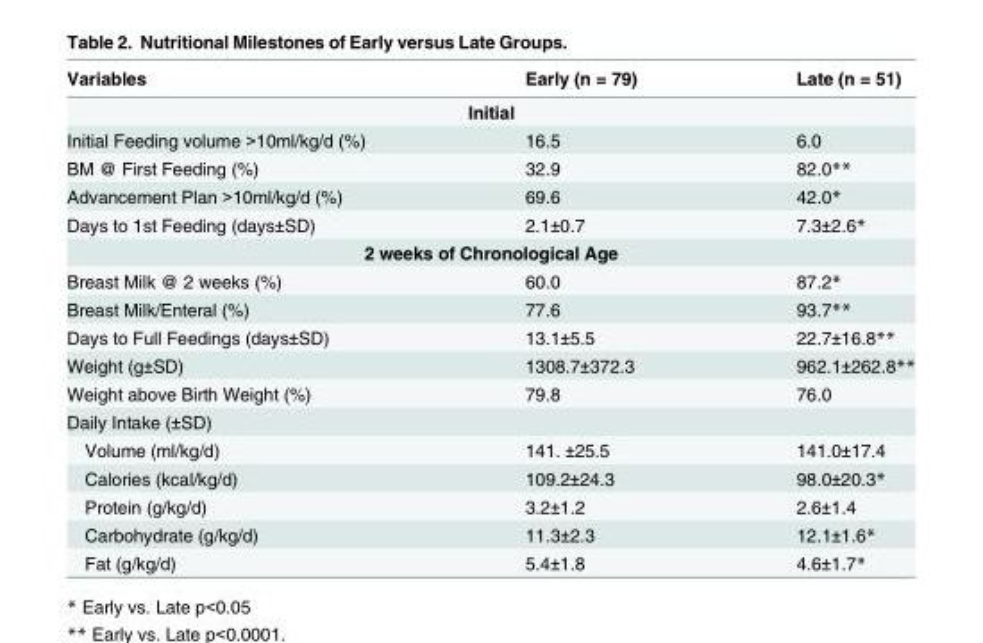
<table><thead><tr><td>Variables</td><td>Early (n = 79)</td><td>Late (n = 51)</td></tr></thead><tbody><tr><td colspan="3">Initial</td></tr><tr><td>Initial Feeding volume &gt;10ml/kg/d (%)</td><td>16.5</td><td>6.0</td></tr><tr><td>BM @ First Feeding (%)</td><td>32.9</td><td>82.0**</td></tr><tr><td>Advancement Plan &gt;10ml/kg/d (%)</td><td>69.6</td><td>42.0*</td></tr><tr><td>Days to 1st Feeding (days±SD)</td><td>2.1±0.7</td><td>7.3±2.6*</td></tr><tr><td colspan="3">2 weeks of Chronological Age</td></tr><tr><td>Breast Milk @ 2 weeks (%)</td><td>60.0</td><td>87.2*</td></tr><tr><td>Breast Milk/Enteral (%)</td><td>77.6</td><td>93.7**</td></tr><tr><td>Days to Full Feedings (days±SD)</td><td>13.1±5.5</td><td>22.7±16.8**</td></tr><tr><td>Weight (g±SD)</td><td>1308.7±372.3</td><td>962.1±262.8**</td></tr><tr><td>Weight above Birth Weight (%)</td><td>79.8</td><td>76.0</td></tr><tr><td colspan="3">Daily Intake (±SD)</td></tr><tr><td>Volume (ml/kg/d)</td><td>141. ±25.5</td><td>141.0±17.4</td></tr><tr><td>Calories (kcal/kg/d)</td><td>109.2±24.3</td><td>98.0±20.3*</td></tr><tr><td>Protein (g/kg/d)</td><td>3.2±1.2</td><td>2.6±1.4</td></tr><tr><td>Carbohydrate (g/kg/d)</td><td>11.3±2.3</td><td>12.1±1.6*</td></tr><tr><td>Fat (g/kg/d)</td><td>5.4±1.8</td><td>4.6±1.7*</td></tr></tbody></table>